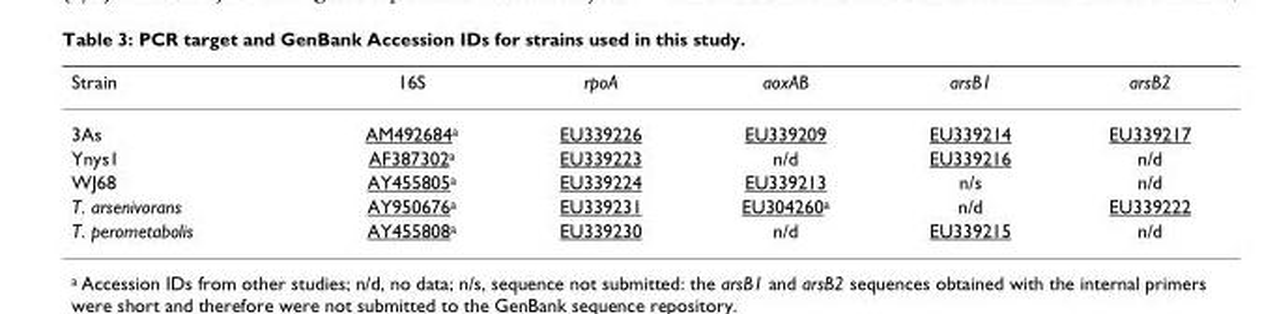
<table><thead><tr><td>Strain</td><td>16S</td><td>rpoA</td><td>aoxAB</td><td>arsB1</td><td>arsB2</td></tr></thead><tbody><tr><td>3As</td><td>AM492684<sup>a</sup></td><td>EU339226</td><td>EU339209</td><td>EU339214</td><td>EU339217</td></tr><tr><td>Ynys1</td><td>AF387302<sup>a</sup></td><td>EU339223</td><td>n/d</td><td>EU339216</td><td>n/d</td></tr><tr><td>WJ68</td><td>AY455805<sup>a</sup></td><td>EU339224</td><td>EU339213</td><td>n/s</td><td>n/d</td></tr><tr><td>T. arsenivorans</td><td>AY950676<sup>a</sup></td><td>EU339231</td><td>EU304260<sup>a</sup></td><td>n/d</td><td>EU339222</td></tr><tr><td>T. perometabolis</td><td>AY455808<sup>a</sup></td><td>EU339230</td><td>n/d</td><td>EU339215</td><td>n/d</td></tr></tbody></table>